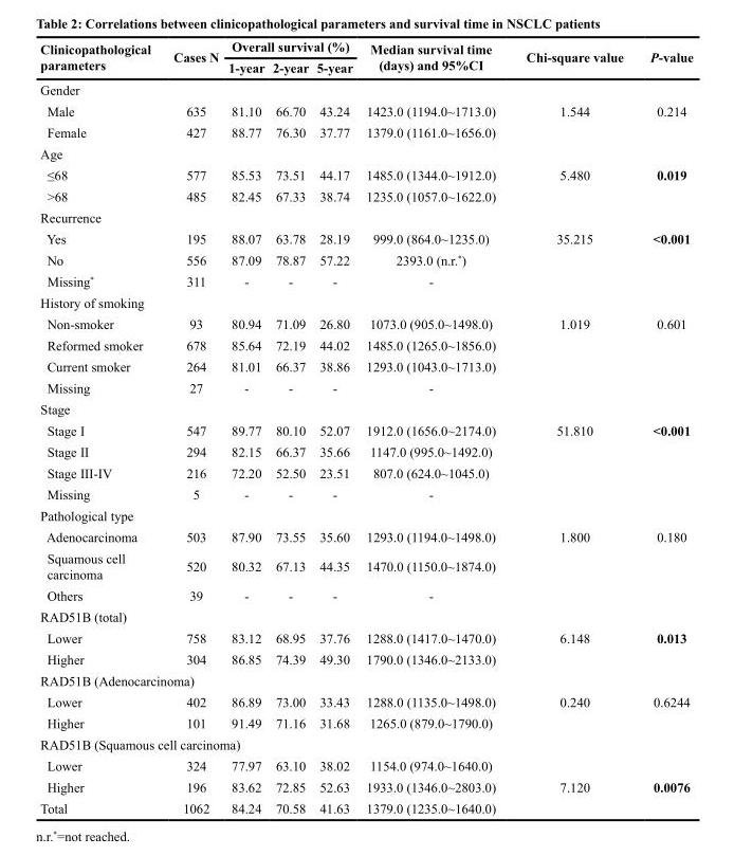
<table><thead><tr><td rowspan="2">Clinicopathological parameters</td><td rowspan="2">Cases N</td><td colspan="3">Overall survival (%)</td><td rowspan="2">Median survival time (days) and 95%CI</td><td rowspan="2">Chi-square value</td><td rowspan="2">P-value</td></tr><tr><td>1-year</td><td>2-year</td><td>5-year</td></tr></thead><tbody><tr><td colspan="8">Gender</td></tr><tr><td>Male</td><td>635</td><td>81.10</td><td>66.70</td><td>43.24</td><td>1423.0 (1194.0~1713.0)</td><td>1.544</td><td>0.214</td></tr><tr><td>Female</td><td>427</td><td>88.77</td><td>76.30</td><td>37.77</td><td>1379.0 (1161.0~1656.0)</td><td></td><td></td></tr><tr><td colspan="8">Age</td></tr><tr><td>≤68</td><td>577</td><td>85.53</td><td>73.51</td><td>44.17</td><td>1485.0 (1344.0~1912.0)</td><td>5.480</td><td>0.019</td></tr><tr><td>&gt;68</td><td>485</td><td>82.45</td><td>67.33</td><td>38.74</td><td>1235.0 (1057.0~1622.0)</td><td></td><td></td></tr><tr><td colspan="8">Recurrence</td></tr><tr><td>Yes</td><td>195</td><td>88.07</td><td>63.78</td><td>28.19</td><td>999.0 (864.0~1235.0)</td><td>35.215</td><td>&lt;0.001</td></tr><tr><td>No</td><td>556</td><td>87.09</td><td>78.87</td><td>57.22</td><td>2393.0 (n.r.*)</td><td></td><td></td></tr><tr><td>Missing*</td><td>311</td><td>-</td><td>-</td><td>-</td><td>-</td><td></td><td></td></tr><tr><td colspan="8">History of smoking</td></tr><tr><td>Non-smoker</td><td>93</td><td>80.94</td><td>71.09</td><td>26.80</td><td>1073.0 (905.0~1498.0)</td><td>1.019</td><td>0.601</td></tr><tr><td>Reformed smoker</td><td>678</td><td>85.64</td><td>72.19</td><td>44.02</td><td>1485.0 (1265.0~1856.0)</td><td></td><td></td></tr><tr><td>Current smoker</td><td>264</td><td>81.01</td><td>66.37</td><td>38.86</td><td>1293.0 (1043.0~1713.0)</td><td></td><td></td></tr><tr><td>Missing</td><td>27</td><td>-</td><td>-</td><td>-</td><td>-</td><td></td><td></td></tr><tr><td colspan="8">Stage</td></tr><tr><td>Stage I</td><td>547</td><td>89.77</td><td>80.10</td><td>52.07</td><td>1912.0 (1656.0~2174.0)</td><td>51.810</td><td>&lt;0.001</td></tr><tr><td>Stage II</td><td>294</td><td>82.15</td><td>66.37</td><td>35.66</td><td>1147.0 (995.0~1492.0)</td><td></td><td></td></tr><tr><td>Stage III-IV</td><td>216</td><td>72.20</td><td>52.50</td><td>23.51</td><td>807.0 (624.0~1045.0)</td><td></td><td></td></tr><tr><td>Missing</td><td>5</td><td>-</td><td>-</td><td>-</td><td>-</td><td></td><td></td></tr><tr><td colspan="8">Pathological type</td></tr><tr><td>Adenocarcinoma</td><td>503</td><td>87.90</td><td>73.55</td><td>35.60</td><td>1293.0 (1194.0~1498.0)</td><td>1.800</td><td>0.180</td></tr><tr><td>Squamous cell carcinoma</td><td>520</td><td>80.32</td><td>67.13</td><td>44.35</td><td>1470.0 (1150.0~1874.0)</td><td></td><td></td></tr><tr><td>Others</td><td>39</td><td>-</td><td>-</td><td>-</td><td>-</td><td></td><td></td></tr><tr><td colspan="8">RAD51B (total)</td></tr><tr><td>Lower</td><td>758</td><td>83.12</td><td>68.95</td><td>37.76</td><td>1288.0 (1417.0~1470.0)</td><td>6.148</td><td>0.013</td></tr><tr><td>Higher</td><td>304</td><td>86.85</td><td>74.39</td><td>49.30</td><td>1790.0 (1346.0~2133.0)</td><td></td><td></td></tr><tr><td colspan="8">RAD51B (Adenocarcinoma)</td></tr><tr><td>Lower</td><td>402</td><td>86.89</td><td>73.00</td><td>33.43</td><td>1288.0 (1135.0~1498.0)</td><td>0.240</td><td>0.6244</td></tr><tr><td>Higher</td><td>101</td><td>91.49</td><td>71.16</td><td>31.68</td><td>1265.0 (879.0~1790.0)</td><td></td><td></td></tr><tr><td colspan="8">RAD51B (Squamous cell carcinoma)</td></tr><tr><td>Lower</td><td>324</td><td>77.97</td><td>63.10</td><td>38.02</td><td>1154.0 (974.0~1640.0)</td><td></td><td></td></tr><tr><td>Higher</td><td>196</td><td>83.62</td><td>72.85</td><td>52.63</td><td>1933.0 (1346.0~2803.0)</td><td>7.120</td><td>0.0076</td></tr><tr><td>Total</td><td>1062</td><td>84.24</td><td>70.58</td><td>41.63</td><td>1379.0 (1235.0~1640.0)</td><td></td><td></td></tr></tbody></table>